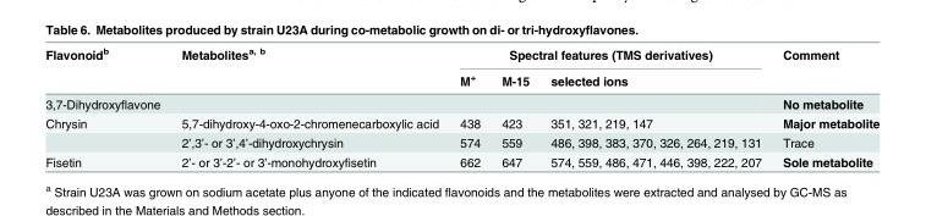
<table><thead><tr><td rowspan="2">Flavonoid<sup>b</sup></td><td rowspan="2">Metabolites<sup>a, b</sup></td><td colspan="3">Spectral features (TMS derivatives)</td><td rowspan="2">Comment</td></tr><tr><td>M<sup>+</sup></td><td>M-15</td><td>selected ions</td></tr></thead><tbody><tr><td>3,7-Dihydroxyflavone</td><td></td><td></td><td></td><td></td><td>No metabolite</td></tr><tr><td rowspan="2">Chrysin</td><td>5,7-dihydroxy-4-oxo-2-chromenecarboxylic acid</td><td>438</td><td>423</td><td>351, 321, 219, 147</td><td>Major metabolite</td></tr><tr><td>2’,3’- or 3’,4’-dihydroxychrysin</td><td>574</td><td>559</td><td>486, 398, 383, 370, 326, 264, 219, 131</td><td>Trace</td></tr><tr><td>Fisetin</td><td>2’- or 3’-2’- or 3’-monohydroxyfisetin</td><td>662</td><td>647</td><td>574, 559, 486, 471, 446, 398, 222, 207</td><td>Sole metabolite</td></tr></tbody></table>